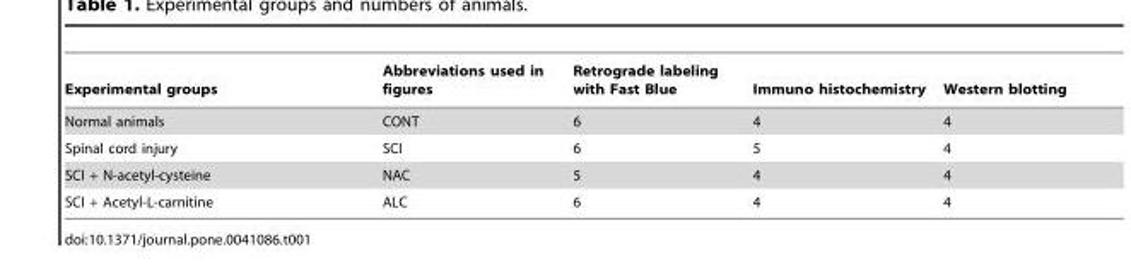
<table><thead><tr><td>Experimental groups</td><td>Abbreviations used in figures</td><td>Retrograde labeling with Fast Blue</td><td>Immuno histochemistry</td><td>Western blotting</td></tr></thead><tbody><tr><td>Normal animals</td><td>CONT</td><td>6</td><td>4</td><td>4</td></tr><tr><td>Spinal cord injury</td><td>SCI</td><td>6</td><td>5</td><td>4</td></tr><tr><td>SCI + N-acetyl-cysteine</td><td>NAC</td><td>5</td><td>4</td><td>4</td></tr><tr><td>SCI + Acetyl-L-carnitine</td><td>ALC</td><td>6</td><td>4</td><td>4</td></tr></tbody></table>